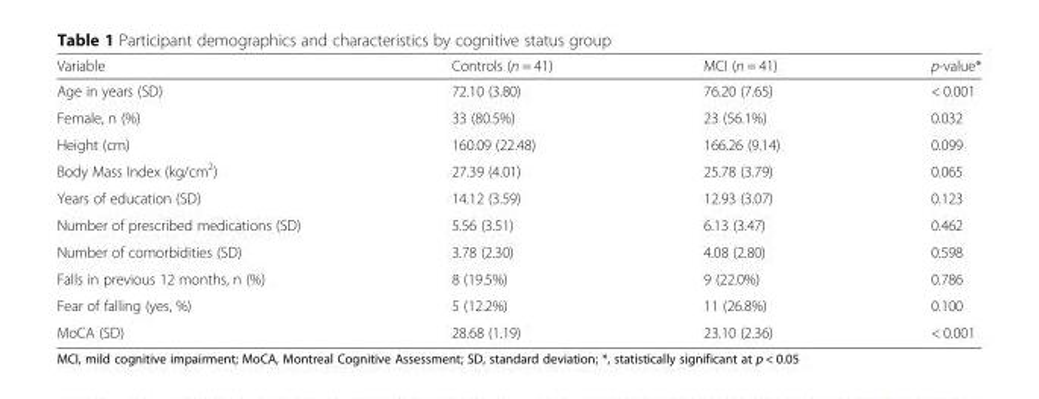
<table><thead><tr><td>Variable</td><td>Controls (n = 41)</td><td>MCI (n = 41)</td><td>p-value*</td></tr></thead><tbody><tr><td>Age in years (SD)</td><td>72.10 (3.80)</td><td>76.20 (7.65)</td><td>&lt; 0.001</td></tr><tr><td>Female, n (%)</td><td>33 (80.5%)</td><td>23 (56.1%)</td><td>0.032</td></tr><tr><td>Height (cm)</td><td>160.09 (22.48)</td><td>166.26 (9.14)</td><td>0.099</td></tr><tr><td>Body Mass Index (kg/cm<sup>2</sup>)</td><td>27.39 (4.01)</td><td>25.78 (3.79)</td><td>0.065</td></tr><tr><td>Years of education (SD)</td><td>14.12 (3.59)</td><td>12.93 (3.07)</td><td>0.123</td></tr><tr><td>Number of prescribed medications (SD)</td><td>5.56 (3.51)</td><td>6.13 (3.47)</td><td>0.462</td></tr><tr><td>Number of comorbidities (SD)</td><td>3.78 (2.30)</td><td>4.08 (2.80)</td><td>0.598</td></tr><tr><td>Falls in previous 12 months, n (%)</td><td>8 (19.5%)</td><td>9 (22.0%)</td><td>0.786</td></tr><tr><td>Fear of falling (yes, %)</td><td>5 (12.2%)</td><td>11 (26.8%)</td><td>0.100</td></tr><tr><td>MoCA (SD)</td><td>28.68 (1.19)</td><td>23.10 (2.36)</td><td>&lt; 0.001</td></tr></tbody></table>